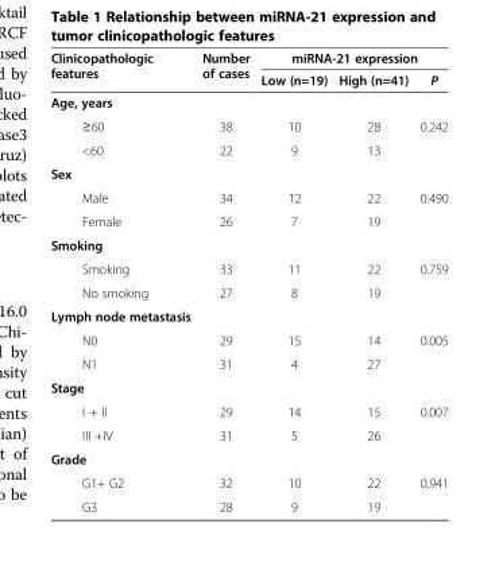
<table><thead><tr><td rowspan="2">Clinicopathologic features</td><td rowspan="2">Number of cases</td><td colspan="3">miRNA-21 expression</td></tr><tr><td>Low (n=19)</td><td>High (n=41)</td><td>P</td></tr></thead><tbody><tr><td colspan="5">Age, years</td></tr><tr><td>≥60</td><td>38</td><td>10</td><td>28</td><td rowspan="2">0.242</td></tr><tr><td>&lt;60</td><td>22</td><td>9</td><td>13</td></tr><tr><td colspan="5">Sex</td></tr><tr><td>Male</td><td>34</td><td>12</td><td>22</td><td rowspan="2">0.490</td></tr><tr><td>Female</td><td>26</td><td>7</td><td>19</td></tr><tr><td colspan="5">Smoking</td></tr><tr><td>Smoking</td><td>33</td><td>11</td><td>22</td><td rowspan="2">0.759</td></tr><tr><td>No smoking</td><td>27</td><td>8</td><td>19</td></tr><tr><td colspan="5">Lymph node metastasis</td></tr><tr><td>N0</td><td>29</td><td>15</td><td>14</td><td rowspan="2">0.005</td></tr><tr><td>N1</td><td>31</td><td>4</td><td>27</td></tr><tr><td colspan="5">Stage</td></tr><tr><td>I + II</td><td>29</td><td>14</td><td>15</td><td rowspan="2">0.007</td></tr><tr><td>III +IV</td><td>31</td><td>5</td><td>26</td></tr><tr><td colspan="5">Grade</td></tr><tr><td>G1+ G2</td><td>32</td><td>10</td><td>22</td><td rowspan="2">0.941</td></tr><tr><td>G3</td><td>28</td><td>9</td><td>19</td></tr></tbody></table>